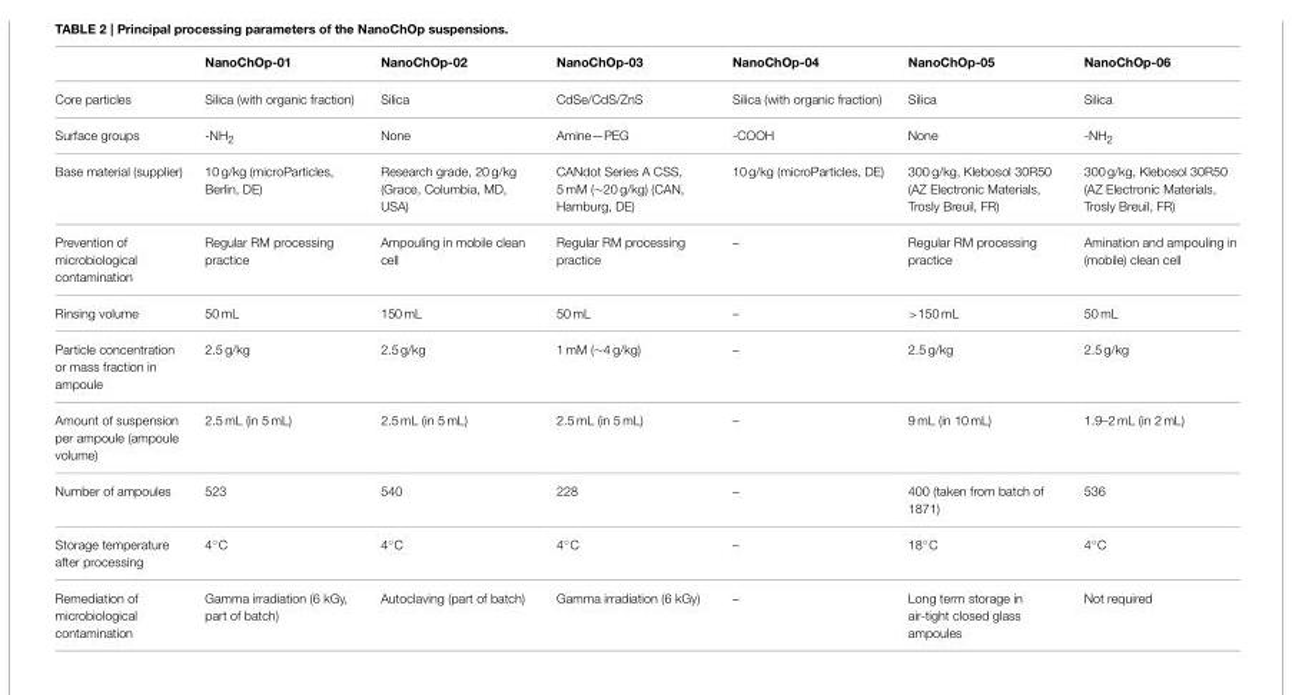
<table><thead><tr><td></td><td>NanoChOp-01</td><td>NanoChOp-02</td><td>NanoChOp-03</td><td>NanoChOp-04</td><td>NanoChOp-05</td><td>NanoChOp-06</td></tr></thead><tbody><tr><td>Core particles</td><td>Silica (with organic fraction)</td><td>Silica</td><td>CdSe/CdS/ZnS</td><td>Silica (with organic fraction)</td><td>Silica</td><td>Silica</td></tr><tr><td>Surface groups</td><td>-NH<sub>2</sub></td><td>None</td><td>Amine—PEG</td><td>-COOH</td><td>None</td><td>-NH<sub>2</sub></td></tr><tr><td>Base material (supplier)</td><td>10 g/kg (microParticles, Berlin, DE)</td><td>Research grade, 20 g/kg (Grace, Columbia, MD, USA)</td><td>CANdot Series A CSS, 5 mM (∼20 g/kg) (CAN, Hamburg, DE)</td><td>10 g/kg (microParticles, DE)</td><td>300 g/kg, Klebosol 30R50 (AZ Electronic Materials, Trosly Breuil, FR)</td><td>300 g/kg, Klebosol 30R50 (AZ Electronic Materials, Trosly Breuil, FR)</td></tr><tr><td>Prevention of microbiological contamination</td><td>Regular RM processing practice</td><td>Ampouling in mobile clean cell</td><td>Regular RM processing practice</td><td>–</td><td>Regular RM processing practice</td><td>Amination and ampouling in (mobile) clean cell</td></tr><tr><td>Rinsing volume</td><td>50 mL</td><td>150 mL</td><td>50 mL</td><td>–</td><td>&gt;150 mL</td><td>50 mL</td></tr><tr><td>Particle concentration or mass fraction in ampoule</td><td>2.5 g/kg</td><td>2.5 g/kg</td><td>1 mM (∼4 g/kg)</td><td>–</td><td>2.5 g/kg</td><td>2.5 g/kg</td></tr><tr><td>Amount of suspension per ampoule (ampoule volume)</td><td>2.5 mL (in 5 mL)</td><td>2.5 mL (in 5 mL)</td><td>2.5 mL (in 5 mL)</td><td>–</td><td>9 mL (in 10 mL)</td><td>1.9–2 mL (in 2 mL)</td></tr><tr><td>Number of ampoules</td><td>523</td><td>540</td><td>228</td><td>–</td><td>400 (taken from batch of 1871)</td><td>536</td></tr><tr><td>Storage temperature after processing</td><td>4◦C</td><td>4◦C</td><td>4◦C</td><td>–</td><td>18◦C</td><td>4◦C</td></tr><tr><td>Remediation of microbiological contamination</td><td>Gamma irradiation (6 kGy, part of batch)</td><td>Autoclaving (part of batch)</td><td>Gamma irradiation (6 kGy)</td><td>–</td><td>Long term storage in air-tight closed glass ampoules</td><td>Not required</td></tr></tbody></table>